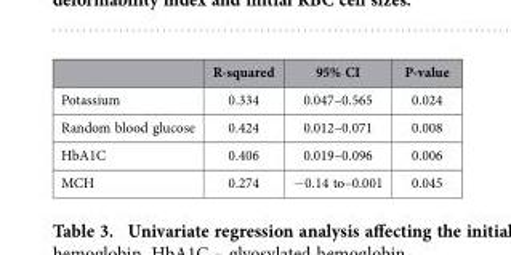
<table><thead><tr><td></td><td>R-squared</td><td>95% CI</td><td>P-value</td></tr></thead><tbody><tr><td>Potassium</td><td>0.334</td><td>0.047–0.565</td><td>0.024</td></tr><tr><td>Random blood glucose</td><td>0.424</td><td>0.012–0.071</td><td>0.008</td></tr><tr><td>HbA1C</td><td>0.406</td><td>0.019–0.096</td><td>0.006</td></tr><tr><td>MCH</td><td>0.274</td><td>− 0.14 to–0.001</td><td>0.045</td></tr></tbody></table>